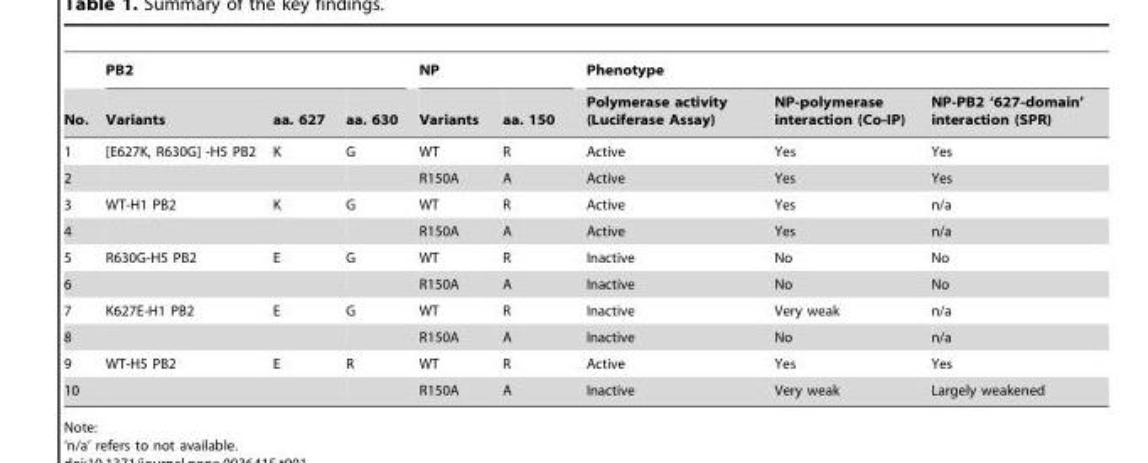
<table><thead><tr><td rowspan="2">No.</td><td colspan="3">PB2</td><td colspan="2">NP</td><td colspan="3">Phenotype</td></tr><tr><td>Variants</td><td>aa. 627</td><td>aa. 630</td><td>Variants</td><td>aa. 150</td><td>Polymerase activity (Luciferase Assay)</td><td>NP-polymerase interaction (Co-IP)</td><td>NP-PB2 ‘627-domain’ interaction (SPR)</td></tr></thead><tbody><tr><td>1</td><td>[E627K, R630G] -H5 PB2</td><td>K</td><td>G</td><td>WT</td><td>R</td><td>Active</td><td>Yes</td><td>Yes</td></tr><tr><td>2</td><td></td><td></td><td></td><td>R150A</td><td>A</td><td>Active</td><td>Yes</td><td>Yes</td></tr><tr><td>3</td><td>WT-H1 PB2</td><td>K</td><td>G</td><td>WT</td><td>R</td><td>Active</td><td>Yes</td><td>n/a</td></tr><tr><td>4</td><td></td><td></td><td></td><td>R150A</td><td>A</td><td>Active</td><td>Yes</td><td>n/a</td></tr><tr><td>5</td><td>R630G-H5 PB2</td><td>E</td><td>G</td><td>WT</td><td>R</td><td>Inactive</td><td>No</td><td>No</td></tr><tr><td>6</td><td></td><td></td><td></td><td>R150A</td><td>A</td><td>Inactive</td><td>No</td><td>No</td></tr><tr><td>7</td><td>K627E-H1 PB2</td><td>E</td><td>G</td><td>WT</td><td>R</td><td>Inactive</td><td>Very weak</td><td>n/a</td></tr><tr><td>8</td><td></td><td></td><td></td><td>R150A</td><td>A</td><td>Inactive</td><td>No</td><td>n/a</td></tr><tr><td>9</td><td>WT-H5 PB2</td><td>E</td><td>R</td><td>WT</td><td>R</td><td>Active</td><td>Yes</td><td>Yes</td></tr><tr><td>10</td><td></td><td></td><td></td><td>R150A</td><td>A</td><td>Inactive</td><td>Very weak</td><td>Largely weakened</td></tr></tbody></table>